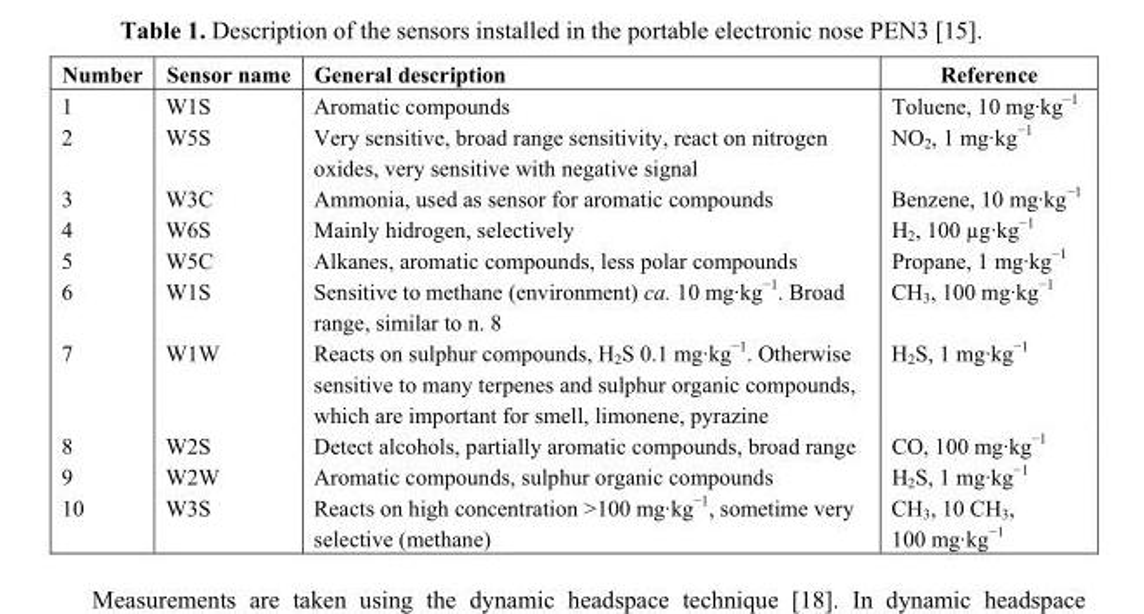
<table><thead><tr><td>Number</td><td>Sensor name</td><td>General description</td><td>Reference</td></tr></thead><tbody><tr><td>1</td><td>W1S</td><td>Aromatic compounds</td><td>Toluene, 10 mg·kg<sup>−1</sup></td></tr><tr><td>2</td><td>W5S</td><td>Very sensitive, broad range sensitivity, react on nitrogen oxides, very sensitive with negative signal</td><td>NO<sub>2</sub>, 1 mg·kg<sup>−1</sup></td></tr><tr><td>3</td><td>W3C</td><td>Ammonia, used as sensor for aromatic compounds</td><td>Benzene, 10 mg·kg<sup>−1</sup></td></tr><tr><td>4</td><td>W6S</td><td>Mainly hidrogen, selectively</td><td>H<sub>2</sub>, 100 µg·kg<sup>−1</sup></td></tr><tr><td>5</td><td>W5C</td><td>Alkanes, aromatic compounds, less polar compounds</td><td>Propane, 1 mg·kg<sup>−1</sup></td></tr><tr><td>6</td><td>W1S</td><td>Sensitive to methane (environment) ca. 10 mg·kg<sup>−1</sup>. Broad range, similar to n. 8</td><td>CH<sub>3</sub>, 100 mg·kg<sup>−1</sup></td></tr><tr><td>7</td><td>W1W</td><td>Reacts on sulphur compounds, H<sub>2</sub>S 0.1 mg·kg<sup>−1</sup>. Otherwise sensitive to many terpenes and sulphur organic compounds, which are important for smell, limonene, pyrazine</td><td>H<sub>2</sub>S, 1 mg·kg<sup>−1</sup></td></tr><tr><td>8</td><td>W2S</td><td>Detect alcohols, partially aromatic compounds, broad range</td><td>CO, 100 mg·kg<sup>−1</sup></td></tr><tr><td>9</td><td>W2W</td><td>Aromatic compounds, sulphur organic compounds</td><td>H<sub>2</sub>S, 1 mg·kg<sup>−1</sup></td></tr><tr><td>10</td><td>W3S</td><td>Reacts on high concentration &gt;100 mg·kg<sup>−1</sup>, sometime very selective (methane)</td><td>CH<sub>3</sub>, 10 CH<sub>3</sub>, 100 mg·kg<sup>−1</sup></td></tr></tbody></table>